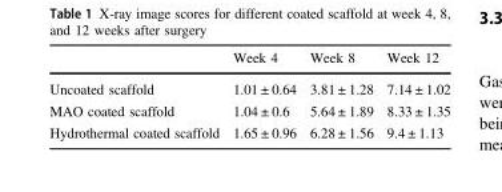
<table><thead><tr><td></td><td>Week 4</td><td>Week 8</td><td>Week 12</td></tr></thead><tbody><tr><td>Uncoated scaffold</td><td>1.01 ± 0.64</td><td>3.81 ± 1.28</td><td>7.14 ± 1.02</td></tr><tr><td>MAO coated scaffold</td><td>1.04 ± 0.6</td><td>5.64 ± 1.89</td><td>8.33 ± 1.35</td></tr><tr><td>Hydrothermal coated scaffold</td><td>1.65 ± 0.96</td><td>6.28 ± 1.56</td><td>9.4 ± 1.13</td></tr></tbody></table>